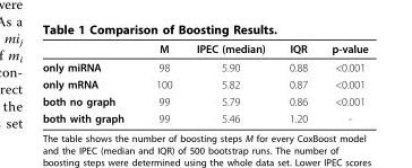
<table><thead><tr><td></td><td>M</td><td>IPEC (median)</td><td>IQR</td><td>p-value</td></tr></thead><tbody><tr><td>only miRNA</td><td>98</td><td>5.90</td><td>0.88</td><td>&lt;0.001</td></tr><tr><td>only mRNA</td><td>100</td><td>5.82</td><td>0.87</td><td>&lt;0.001</td></tr><tr><td>both no graph</td><td>99</td><td>5.79</td><td>0.86</td><td>&lt;0.001</td></tr><tr><td>both with graph</td><td>99</td><td>5.46</td><td>1.20</td><td>-</td></tr></tbody></table>